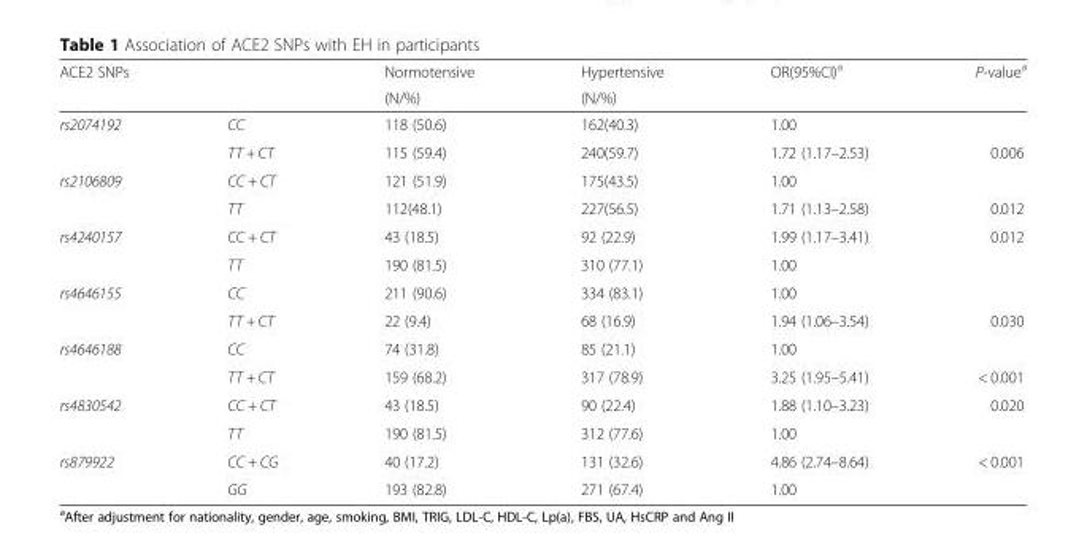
<table><thead><tr><td rowspan="2" colspan="2">ACE2 SNPs</td><td rowspan="3">Normotensive (N/%) 118 (50.6)</td><td rowspan="3">Hypertensive (N/%) 162(40.3)</td><td rowspan="3">OR(95%CI)<sup>a</sup> 1.00</td><td rowspan="3">P-value<sup>a</sup></td></tr><tr></tr><tr><td>rs2074192</td><td>CC</td></tr></thead><tbody><tr><td></td><td>TT + CT</td><td>115 (59.4)</td><td>240(59.7)</td><td>1.72 (1.17–2.53)</td><td>0.006</td></tr><tr><td rowspan="2">rs2106809</td><td>CC + CT</td><td>121 (51.9)</td><td>175(43.5)</td><td>1.00</td><td></td></tr><tr><td>TT</td><td>112(48.1)</td><td>227(56.5)</td><td>1.71 (1.13–2.58)</td><td>0.012</td></tr><tr><td rowspan="2">rs4240157</td><td>CC + CT</td><td>43 (18.5)</td><td>92 (22.9)</td><td>1.99 (1.17–3.41)</td><td>0.012</td></tr><tr><td>TT</td><td>190 (81.5)</td><td>310 (77.1)</td><td>1.00</td><td></td></tr><tr><td rowspan="2">rs4646155</td><td>CC</td><td>211 (90.6)</td><td>334 (83.1)</td><td>1.00</td><td></td></tr><tr><td>TT + CT</td><td>22 (9.4)</td><td>68 (16.9)</td><td>1.94 (1.06–3.54)</td><td>0.030</td></tr><tr><td rowspan="2">rs4646188</td><td>CC</td><td>74 (31.8)</td><td>85 (21.1)</td><td>1.00</td><td></td></tr><tr><td>TT + CT</td><td>159 (68.2)</td><td>317 (78.9)</td><td>3.25 (1.95–5.41)</td><td>&lt; 0.001</td></tr><tr><td rowspan="2">rs4830542</td><td>CC + CT</td><td>43 (18.5)</td><td>90 (22.4)</td><td>1.88 (1.10–3.23)</td><td>0.020</td></tr><tr><td>TT</td><td>190 (81.5)</td><td>312 (77.6)</td><td>1.00</td><td></td></tr><tr><td rowspan="2">rs879922</td><td>CC + CG</td><td>40 (17.2)</td><td>131 (32.6)</td><td>4.86 (2.74–8.64)</td><td>&lt; 0.001</td></tr><tr><td>GG</td><td>193 (82.8)</td><td>271 (67.4)</td><td>1.00</td><td></td></tr></tbody></table>